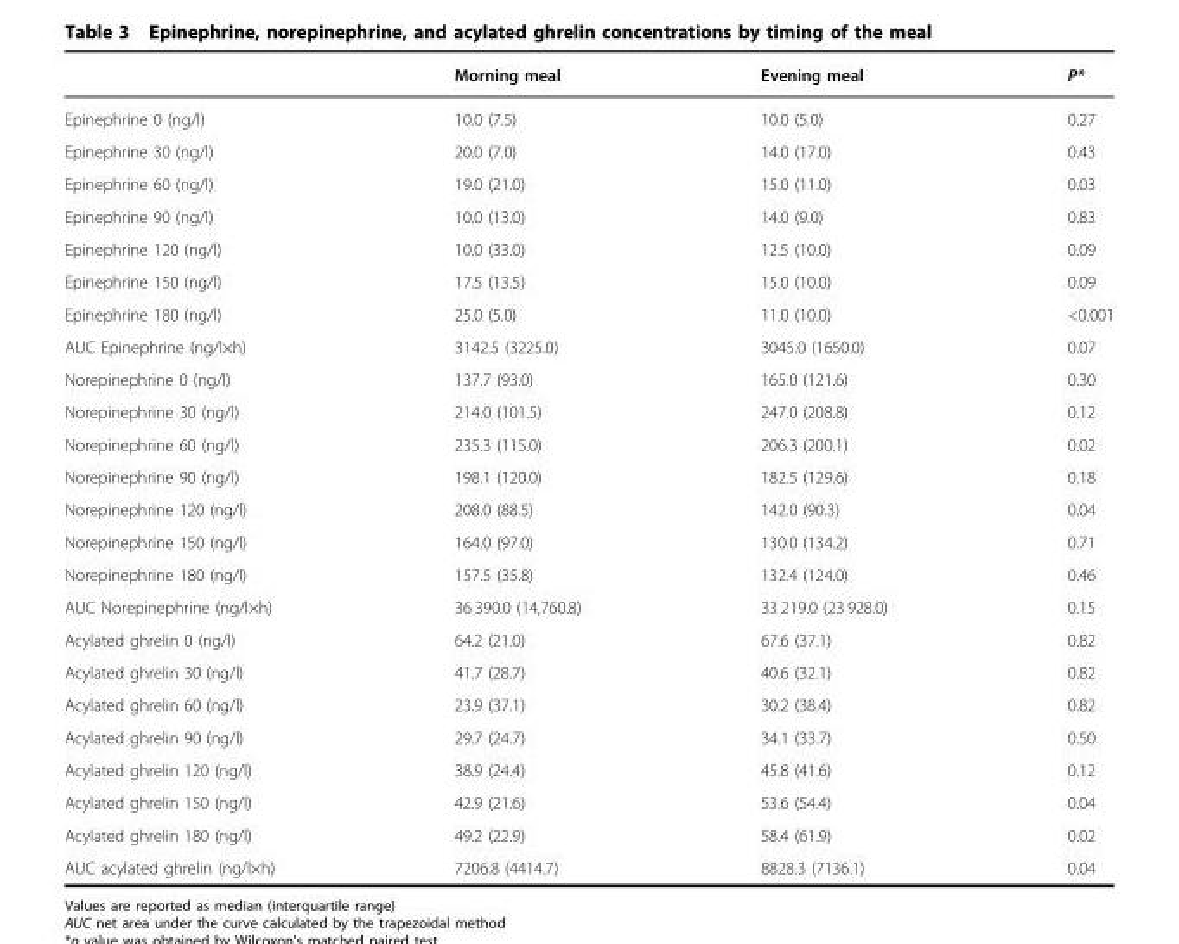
<table><thead><tr><td></td><td>Morning meal</td><td>Evening meal</td><td>P*</td></tr></thead><tbody><tr><td>Epinephrine 0 (ng/l)</td><td>10.0 (7.5)</td><td>10.0 (5.0)</td><td>0.27</td></tr><tr><td>Epinephrine 30 (ng/l)</td><td>20.0 (7.0)</td><td>14.0 (17.0)</td><td>0.43</td></tr><tr><td>Epinephrine 60 (ng/l)</td><td>19.0 (21.0)</td><td>15.0 (11.0)</td><td>0.03</td></tr><tr><td>Epinephrine 90 (ng/l)</td><td>10.0 (13.0)</td><td>14.0 (9.0)</td><td>0.83</td></tr><tr><td>Epinephrine 120 (ng/l)</td><td>10.0 (33.0)</td><td>12.5 (10.0)</td><td>0.09</td></tr><tr><td>Epinephrine 150 (ng/l)</td><td>17.5 (13.5)</td><td>15.0 (10.0)</td><td>0.09</td></tr><tr><td>Epinephrine 180 (ng/l)</td><td>25.0 (5.0)</td><td>11.0 (10.0)</td><td>&lt;0.001</td></tr><tr><td>AUC Epinephrine (ng/l×h)</td><td>3142.5 (3225.0)</td><td>3045.0 (1650.0)</td><td>0.07</td></tr><tr><td>Norepinephrine 0 (ng/l)</td><td>137.7 (93.0)</td><td>165.0 (121.6)</td><td>0.30</td></tr><tr><td>Norepinephrine 30 (ng/l)</td><td>214.0 (101.5)</td><td>247.0 (208.8)</td><td>0.12</td></tr><tr><td>Norepinephrine 60 (ng/l)</td><td>235.3 (115.0)</td><td>206.3 (200.1)</td><td>0.02</td></tr><tr><td>Norepinephrine 90 (ng/l)</td><td>198.1 (120.0)</td><td>182.5 (129.6)</td><td>0.18</td></tr><tr><td>Norepinephrine 120 (ng/l)</td><td>208.0 (88.5)</td><td>142.0 (90.3)</td><td>0.04</td></tr><tr><td>Norepinephrine 150 (ng/l)</td><td>164.0 (97.0)</td><td>130.0 (134.2)</td><td>0.71</td></tr><tr><td>Norepinephrine 180 (ng/l)</td><td>157.5 (35.8)</td><td>132.4 (124.0)</td><td>0.46</td></tr><tr><td>AUC Norepinephrine (ng/l×h)</td><td>36 390.0 (14,760.8)</td><td>33 219.0 (23 928.0)</td><td>0.15</td></tr><tr><td>Acylated ghrelin 0 (ng/l)</td><td>64.2 (21.0)</td><td>67.6 (37.1)</td><td>0.82</td></tr><tr><td>Acylated ghrelin 30 (ng/l)</td><td>41.7 (28.7)</td><td>40.6 (32.1)</td><td>0.82</td></tr><tr><td>Acylated ghrelin 60 (ng/l)</td><td>23.9 (37.1)</td><td>30.2 (38.4)</td><td>0.82</td></tr><tr><td>Acylated ghrelin 90 (ng/l)</td><td>29.7 (24.7)</td><td>34.1 (33.7)</td><td>0.50</td></tr><tr><td>Acylated ghrelin 120 (ng/l)</td><td>38.9 (24.4)</td><td>45.8 (41.6)</td><td>0.12</td></tr><tr><td>Acylated ghrelin 150 (ng/l)</td><td>42.9 (21.6)</td><td>53.6 (54.4)</td><td>0.04</td></tr><tr><td>Acylated ghrelin 180 (ng/l)</td><td>49.2 (22.9)</td><td>58.4 (61.9)</td><td>0.02</td></tr><tr><td>AUC acylated ghrelin (ng/l×h)</td><td>7206.8 (4414.7)</td><td>8828.3 (7136.1)</td><td>0.04</td></tr></tbody></table>